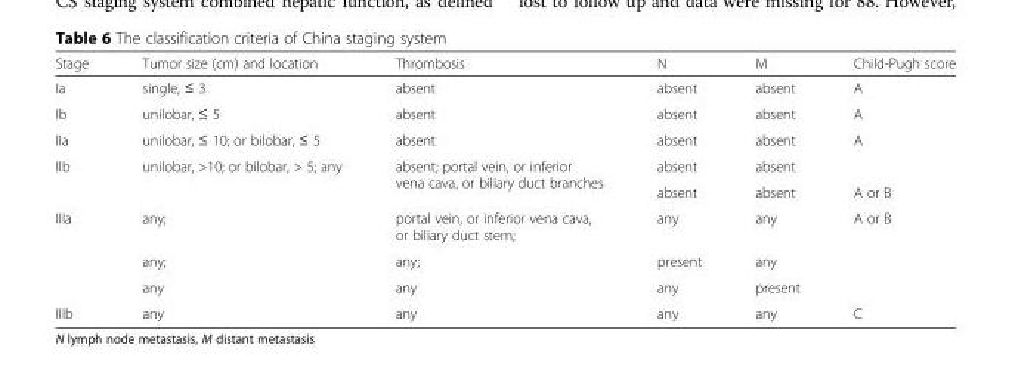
<table><thead><tr><td>Stage</td><td>Tumor size (cm) and location</td><td>Thrombosis</td><td>N</td><td>M</td><td>Child-Pugh score</td></tr></thead><tbody><tr><td>Ia</td><td>single, ≤ 3</td><td>absent</td><td>absent</td><td>absent</td><td>A</td></tr><tr><td>Ib</td><td>unilobar, ≤ 5</td><td>absent</td><td>absent</td><td>absent</td><td>A</td></tr><tr><td>IIa</td><td>unilobar, ≤ 10; or bilobar, ≤ 5</td><td>absent</td><td>absent</td><td>absent</td><td>A</td></tr><tr><td rowspan="2">IIb</td><td rowspan="2">unilobar, &gt;10; or bilobar, &gt; 5; any</td><td rowspan="2">absent; portal vein, or inferior vena cava, or biliary duct branches</td><td>absent</td><td>absent</td><td></td></tr><tr><td>absent</td><td>absent</td><td>A or B</td></tr><tr><td rowspan="3">IIIa</td><td>any;</td><td>portal vein, or inferior vena cava, or biliary duct stem;</td><td>any</td><td>any</td><td rowspan="3">A or B</td></tr><tr><td>any;</td><td>any;</td><td>present</td><td>any</td></tr><tr><td>any</td><td>any</td><td>any</td><td>present</td></tr><tr><td>IIIb</td><td>any</td><td>any</td><td>any</td><td>any</td><td>C</td></tr></tbody></table>